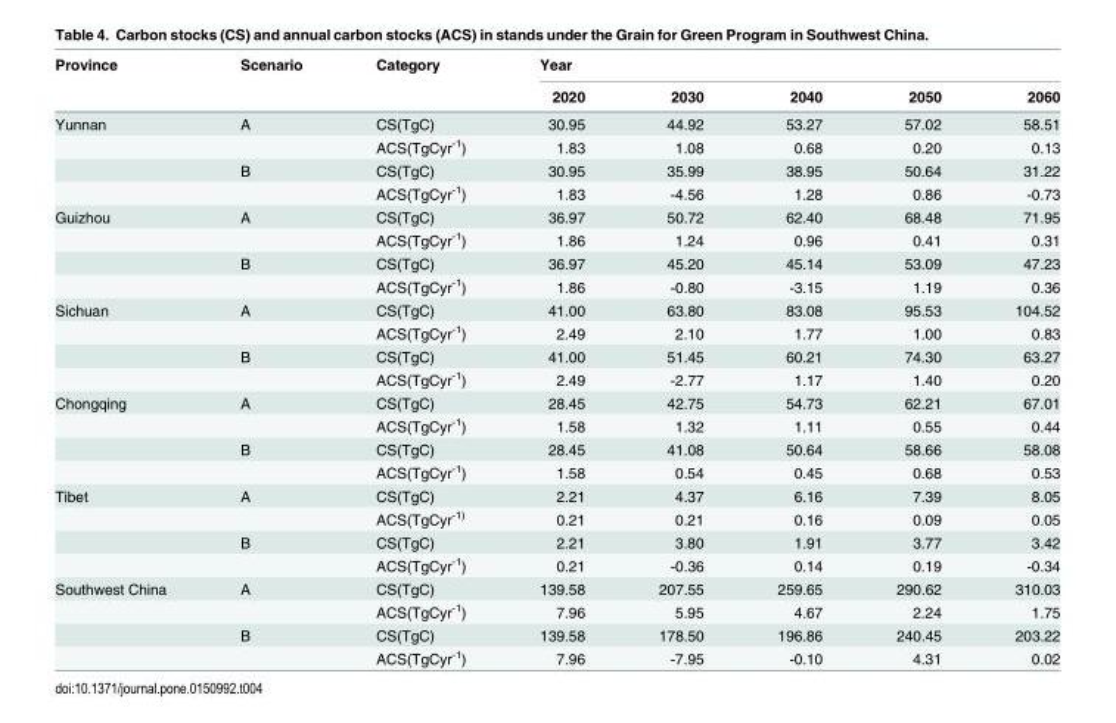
<table><thead><tr><td rowspan="2">Province</td><td rowspan="2">Scenario</td><td rowspan="2">Category</td><td colspan="5">Year</td></tr><tr><td>2020</td><td>2030</td><td>2040</td><td>2050</td><td>2060</td></tr></thead><tbody><tr><td rowspan="4">Yunnan</td><td>A</td><td>CS(TgC)</td><td>30.95</td><td>44.92</td><td>53.27</td><td>57.02</td><td>58.51</td></tr><tr><td></td><td>ACS(TgCyr<sup>-1</sup>)</td><td>1.83</td><td>1.08</td><td>0.68</td><td>0.20</td><td>0.13</td></tr><tr><td>B</td><td>CS(TgC)</td><td>30.95</td><td>35.99</td><td>38.95</td><td>50.64</td><td>31.22</td></tr><tr><td></td><td>ACS(TgCyr<sup>-1</sup>)</td><td>1.83</td><td>-4.56</td><td>1.28</td><td>0.86</td><td>-0.73</td></tr><tr><td rowspan="4">Guizhou</td><td>A</td><td>CS(TgC)</td><td>36.97</td><td>50.72</td><td>62.40</td><td>68.48</td><td>71.95</td></tr><tr><td></td><td>ACS(TgCyr<sup>-1</sup>)</td><td>1.86</td><td>1.24</td><td>0.96</td><td>0.41</td><td>0.31</td></tr><tr><td>B</td><td>CS(TgC)</td><td>36.97</td><td>45.20</td><td>45.14</td><td>53.09</td><td>47.23</td></tr><tr><td></td><td>ACS(TgCyr<sup>-1</sup>)</td><td>1.86</td><td>-0.80</td><td>-3.15</td><td>1.19</td><td>0.36</td></tr><tr><td rowspan="4">Sichuan</td><td>A</td><td>CS(TgC)</td><td>41.00</td><td>63.80</td><td>83.08</td><td>95.53</td><td>104.52</td></tr><tr><td></td><td>ACS(TgCyr<sup>-1</sup>)</td><td>2.49</td><td>2.10</td><td>1.77</td><td>1.00</td><td>0.83</td></tr><tr><td>B</td><td>CS(TgC)</td><td>41.00</td><td>51.45</td><td>60.21</td><td>74.30</td><td>63.27</td></tr><tr><td></td><td>ACS(TgCyr<sup>-1</sup>)</td><td>2.49</td><td>-2.77</td><td>1.17</td><td>1.40</td><td>0.20</td></tr><tr><td rowspan="4">Chongqing</td><td>A</td><td>CS(TgC)</td><td>28.45</td><td>42.75</td><td>54.73</td><td>62.21</td><td>67.01</td></tr><tr><td></td><td>ACS(TgCyr<sup>-1</sup>)</td><td>1.58</td><td>1.32</td><td>1.11</td><td>0.55</td><td>0.44</td></tr><tr><td>B</td><td>CS(TgC)</td><td>28.45</td><td>41.08</td><td>50.64</td><td>58.66</td><td>58.08</td></tr><tr><td></td><td>ACS(TgCyr<sup>-1</sup>)</td><td>1.58</td><td>0.54</td><td>0.45</td><td>0.68</td><td>0.53</td></tr><tr><td rowspan="4">Tibet</td><td>A</td><td>CS(TgC)</td><td>2.21</td><td>4.37</td><td>6.16</td><td>7.39</td><td>8.05</td></tr><tr><td></td><td>ACS(TgCyr<sup>-1)</sup></td><td>0.21</td><td>0.21</td><td>0.16</td><td>0.09</td><td>0.05</td></tr><tr><td>B</td><td>CS(TgC)</td><td>2.21</td><td>3.80</td><td>1.91</td><td>3.77</td><td>3.42</td></tr><tr><td></td><td>ACS(TgCyr<sup>-1</sup>)</td><td>0.21</td><td>-0.36</td><td>0.14</td><td>0.19</td><td>-0.34</td></tr><tr><td rowspan="4">Southwest China</td><td>A</td><td>CS(TgC)</td><td>139.58</td><td>207.55</td><td>259.65</td><td>290.62</td><td>310.03</td></tr><tr><td></td><td>ACS(TgCyr<sup>-1</sup>)</td><td>7.96</td><td>5.95</td><td>4.67</td><td>2.24</td><td>1.75</td></tr><tr><td>B</td><td>CS(TgC)</td><td>139.58</td><td>178.50</td><td>196.86</td><td>240.45</td><td>203.22</td></tr><tr><td></td><td>ACS(TgCyr<sup>-1</sup>)</td><td>7.96</td><td>-7.95</td><td>-0.10</td><td>4.31</td><td>0.02</td></tr></tbody></table>